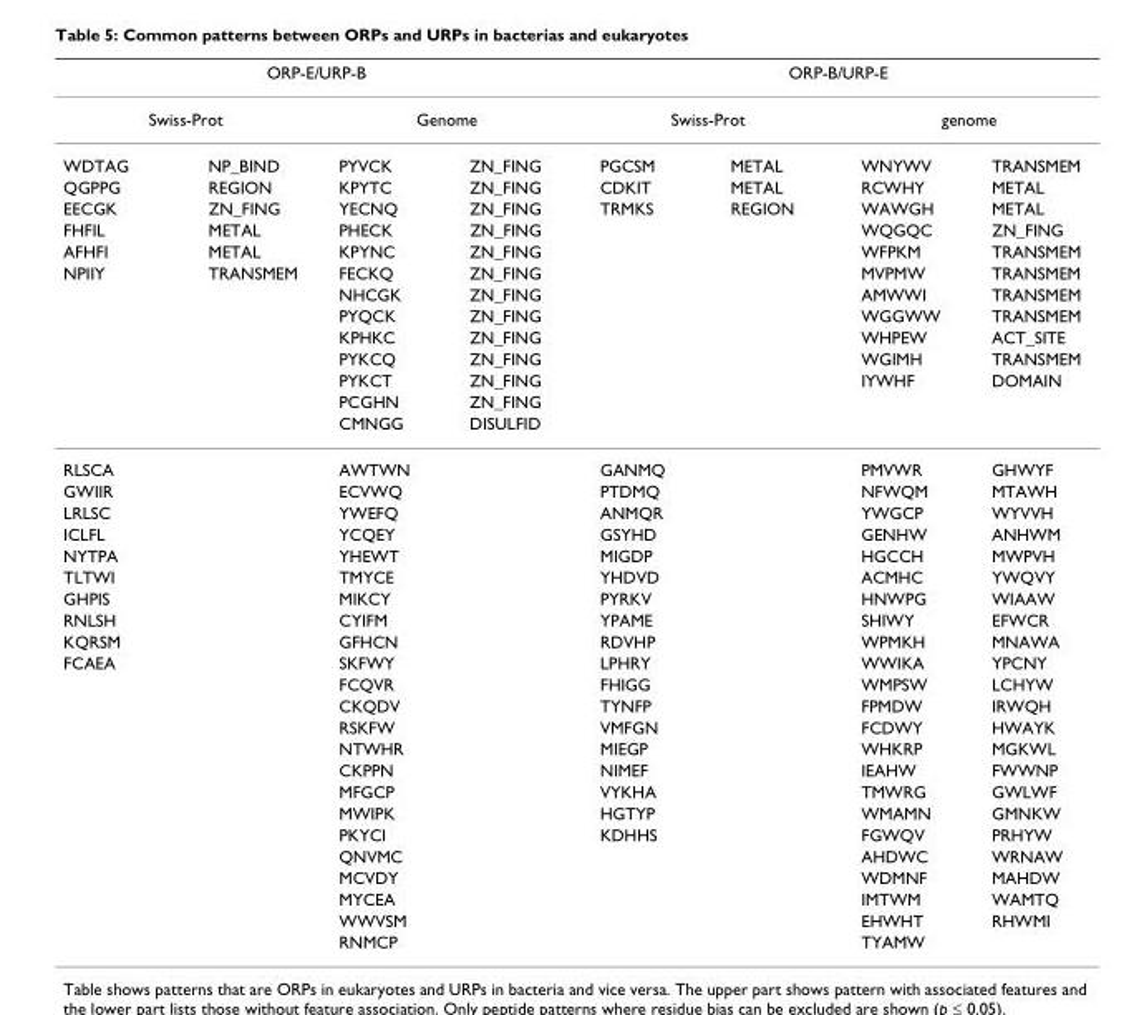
<table><thead><tr><td colspan="4">ORP-E/URP-B</td><td colspan="4">ORP-B/URP-E</td></tr><tr><td colspan="2">Swiss-Prot</td><td colspan="2">Genome</td><td colspan="2">Swiss-Prot</td><td colspan="2">genome</td></tr><tr><td>WDTAG</td><td>NP_BIND</td><td>PYVCK</td><td>ZN_FING</td><td>PGCSM</td><td>METAL</td><td>WNYWV</td><td>TRANSMEM</td></tr></thead><tbody><tr><td>QGPPG</td><td>REGION</td><td>KPYTC</td><td>ZN_FING</td><td>CDKIT</td><td>METAL</td><td>RCWHY</td><td>METAL</td></tr><tr><td>EECGK</td><td>ZN_FING</td><td>YECNQ</td><td>ZN_FING</td><td>TRMKS</td><td>REGION</td><td>WAWGH</td><td>METAL</td></tr><tr><td>FHFIL</td><td>METAL</td><td>PHECK</td><td>ZN_FING</td><td></td><td></td><td>WQGQC</td><td>ZN_FING</td></tr><tr><td>AFHFI</td><td>METAL</td><td>KPYNC</td><td>ZN_FING</td><td></td><td></td><td>WFPKM</td><td>TRANSMEM</td></tr><tr><td rowspan="8">NPIIY</td><td>TRANSMEM</td><td>FECKQ</td><td>ZN_FING</td><td></td><td></td><td>MVPMW</td><td>TRANSMEM</td></tr><tr><td></td><td>NHCGK</td><td>ZN_FING</td><td></td><td></td><td>AMWWI</td><td>TRANSMEM</td></tr><tr><td></td><td>PYQCK</td><td>ZN_FING</td><td></td><td></td><td>WGGWW</td><td>TRANSMEM</td></tr><tr><td></td><td>KPHKC</td><td>ZN_FING</td><td></td><td></td><td>WHPEW</td><td>ACT_SITE</td></tr><tr><td></td><td>PYKCQ</td><td>ZN_FING</td><td></td><td></td><td>WGIMH</td><td>TRANSMEM</td></tr><tr><td></td><td>PYKCT</td><td>ZN_FING</td><td></td><td></td><td>IYWHF</td><td>DOMAIN</td></tr><tr><td></td><td>PCGHN</td><td>ZN_FING</td><td></td><td></td><td></td><td></td></tr><tr><td></td><td>CMNGG</td><td>DISULFID</td><td></td><td></td><td></td><td></td></tr><tr><td>RLSCA</td><td></td><td>AWTWN</td><td></td><td>GANMQ</td><td></td><td>PMVWR</td><td>GHWYF</td></tr><tr><td>GWIIR</td><td></td><td>ECVWQ</td><td></td><td>PTDMQ</td><td></td><td>NFWQM</td><td>MTAWH</td></tr><tr><td>LRLSC</td><td></td><td>YWEFQ</td><td></td><td>ANMQR</td><td></td><td>YWGCP</td><td>WYVVH</td></tr><tr><td>ICLFL</td><td></td><td>YCQEY</td><td></td><td>GSYHD</td><td></td><td>GENHW</td><td>ANHWM</td></tr><tr><td>NYTPA</td><td></td><td>YHEWT</td><td></td><td>MIGDP</td><td></td><td>HGCCH</td><td>MWPVH</td></tr><tr><td>TLTWI</td><td></td><td>TMYCE</td><td></td><td>YHDVD</td><td></td><td>ACMHC</td><td>YWQVY</td></tr><tr><td>GHPIS</td><td></td><td>MIKCY</td><td></td><td>PYRKV</td><td></td><td>HNWPG</td><td>WIAAW</td></tr><tr><td>RNLSH</td><td></td><td>CYIFM</td><td></td><td>YPAME</td><td></td><td>SHIWY</td><td>EFWCR</td></tr><tr><td>KQRSM</td><td></td><td>GFHCN</td><td></td><td>RDVHP</td><td></td><td>WPMKH</td><td>MNAWA</td></tr><tr><td rowspan="14">FCAEA</td><td></td><td>SKFWY</td><td></td><td>LPHRY</td><td></td><td>WWIKA</td><td>YPCNY</td></tr><tr><td></td><td>FCQVR</td><td></td><td>FHIGG</td><td></td><td>WMPSW</td><td>LCHYW</td></tr><tr><td></td><td>CKQDV</td><td></td><td>TYNFP</td><td></td><td>FPMDW</td><td>IRWQH</td></tr><tr><td></td><td>RSKFW</td><td></td><td>VMFGN</td><td></td><td>FCDWY</td><td>HWAYK</td></tr><tr><td></td><td>NTWHR</td><td></td><td>MIEGP</td><td></td><td>WHKRP</td><td>MGKWL</td></tr><tr><td></td><td>CKPPN</td><td></td><td>NIMEF</td><td></td><td>IEAHW</td><td>FWWNP</td></tr><tr><td></td><td>MFGCP</td><td></td><td>VYKHA</td><td></td><td>TMWRG</td><td>GWLWF</td></tr><tr><td></td><td>MWIPK</td><td></td><td>HGTYP</td><td></td><td>WMAMN</td><td>GMNKW</td></tr><tr><td></td><td>PKYCI</td><td></td><td>KDHHS</td><td></td><td>FGWQV</td><td>PRHYW</td></tr><tr><td></td><td>QNVMC</td><td></td><td></td><td></td><td>AHDWC</td><td>WRNAW</td></tr><tr><td></td><td>MCVDY</td><td></td><td></td><td></td><td>WDMNF</td><td>MAHDW</td></tr><tr><td></td><td>MYCEA</td><td></td><td></td><td></td><td>IMTWM</td><td>WAMTQ</td></tr><tr><td></td><td>WWVSM</td><td></td><td></td><td></td><td>EHWHT</td><td>RHWMI</td></tr><tr><td></td><td>RNMCP</td><td></td><td></td><td></td><td>TYAMW</td><td></td></tr></tbody></table>